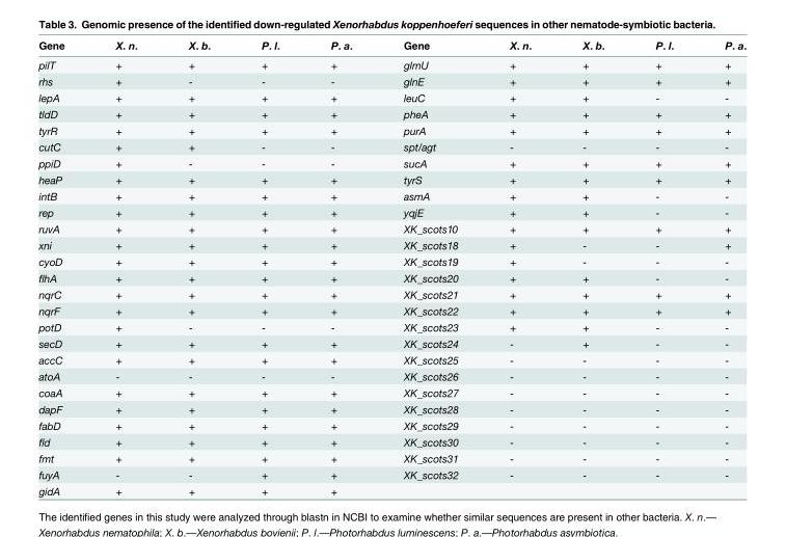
<table><thead><tr><td>Gene</td><td>X. n.</td><td>X. b.</td><td>P. l.</td><td>P. a.</td><td>Gene</td><td>X. n.</td><td>X. b.</td><td>P. l.</td><td>P. a.</td></tr></thead><tbody><tr><td>pilT</td><td>+</td><td>+</td><td>+</td><td>+</td><td>glmU</td><td>+</td><td>+</td><td>+</td><td>+</td></tr><tr><td>rhs</td><td>+</td><td>-</td><td>-</td><td>-</td><td>glnE</td><td>+</td><td>+</td><td>+</td><td>+</td></tr><tr><td>lepA</td><td>+</td><td>+</td><td>+</td><td>+</td><td>leuC</td><td>+</td><td>+</td><td>-</td><td>-</td></tr><tr><td>tldD</td><td>+</td><td>+</td><td>+</td><td>+</td><td>pheA</td><td>+</td><td>+</td><td>+</td><td>+</td></tr><tr><td>tyrR</td><td>+</td><td>+</td><td>+</td><td>+</td><td>purA</td><td>+</td><td>+</td><td>+</td><td>+</td></tr><tr><td>cutC</td><td>+</td><td>+</td><td>-</td><td>-</td><td>spt/agt</td><td>-</td><td>-</td><td>-</td><td>-</td></tr><tr><td>ppiD</td><td>+</td><td>-</td><td>-</td><td>-</td><td>sucA</td><td>+</td><td>+</td><td>+</td><td>+</td></tr><tr><td>heaP</td><td>+</td><td>+</td><td>+</td><td>+</td><td>tyrS</td><td>+</td><td>+</td><td>+</td><td>+</td></tr><tr><td>intB</td><td>+</td><td>+</td><td>+</td><td>+</td><td>asmA</td><td>+</td><td>+</td><td>-</td><td>-</td></tr><tr><td>rep</td><td>+</td><td>+</td><td>+</td><td>+</td><td>yqjE</td><td>+</td><td>+</td><td>-</td><td>-</td></tr><tr><td>ruvA</td><td>+</td><td>+</td><td>+</td><td>+</td><td>XK_scots10</td><td>+</td><td>+</td><td>+</td><td>+</td></tr><tr><td>xni</td><td>+</td><td>+</td><td>+</td><td>+</td><td>XK_scots18</td><td>+</td><td>-</td><td>-</td><td>+</td></tr><tr><td>cyoD</td><td>+</td><td>+</td><td>+</td><td>+</td><td>XK_scots19</td><td>+</td><td>-</td><td>-</td><td>-</td></tr><tr><td>flhA</td><td>+</td><td>+</td><td>+</td><td>+</td><td>XK_scots20</td><td>+</td><td>+</td><td>-</td><td>-</td></tr><tr><td>nqrC</td><td>+</td><td>+</td><td>+</td><td>+</td><td>XK_scots21</td><td>+</td><td>+</td><td>+</td><td>+</td></tr><tr><td>nqrF</td><td>+</td><td>+</td><td>+</td><td>+</td><td>XK_scots22</td><td>+</td><td>+</td><td>+</td><td>+</td></tr><tr><td>potD</td><td>+</td><td>-</td><td>-</td><td>-</td><td>XK_scots23</td><td>+</td><td>+</td><td>-</td><td>-</td></tr><tr><td>secD</td><td>+</td><td>+</td><td>+</td><td>+</td><td>XK_scots24</td><td>-</td><td>+</td><td>-</td><td>-</td></tr><tr><td>accC</td><td>+</td><td>+</td><td>+</td><td>+</td><td>XK_scots25</td><td>-</td><td>-</td><td>-</td><td>-</td></tr><tr><td>atoA</td><td>-</td><td>-</td><td>-</td><td>-</td><td>XK_scots26</td><td>-</td><td>-</td><td>-</td><td>-</td></tr><tr><td>coaA</td><td>+</td><td>+</td><td>+</td><td>+</td><td>XK_scots27</td><td>-</td><td>-</td><td>-</td><td>-</td></tr><tr><td>dapF</td><td>+</td><td>+</td><td>+</td><td>+</td><td>XK_scots28</td><td>-</td><td>-</td><td>-</td><td>-</td></tr><tr><td>fabD</td><td>+</td><td>+</td><td>+</td><td>+</td><td>XK_scots29</td><td>-</td><td>-</td><td>-</td><td>-</td></tr><tr><td>fld</td><td>+</td><td>+</td><td>+</td><td>+</td><td>XK_scots30</td><td>-</td><td>-</td><td>-</td><td>-</td></tr><tr><td>fmt</td><td>+</td><td>+</td><td>+</td><td>+</td><td>XK_scots31</td><td>-</td><td>-</td><td>-</td><td>-</td></tr><tr><td>fuyA</td><td>-</td><td>-</td><td>+</td><td>+</td><td>XK_scots32</td><td>-</td><td>-</td><td>-</td><td>-</td></tr><tr><td>gidA</td><td>+</td><td>+</td><td>+</td><td>+</td><td></td><td></td><td></td><td></td><td></td></tr></tbody></table>